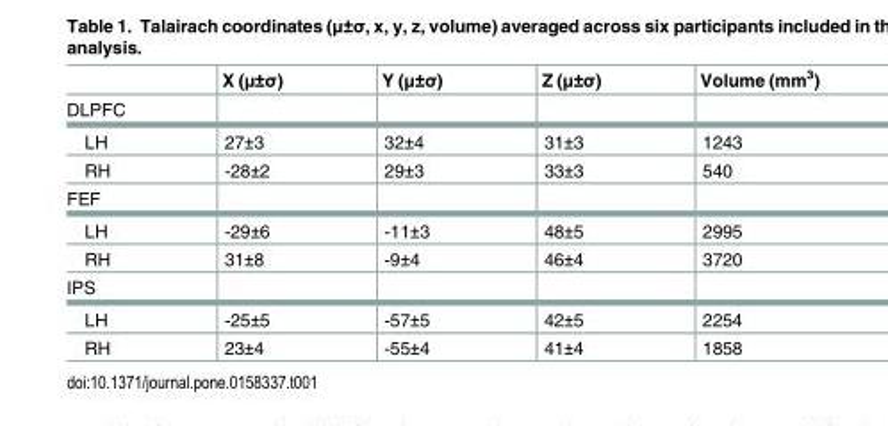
<table><thead><tr><td></td><td>X (μ±σ)</td><td>Y (μ±σ)</td><td>Z (μ±σ)</td><td>Volume (mm<sup>3</sup>)</td></tr></thead><tbody><tr><td colspan="5">DLPFC</td></tr><tr><td>LH</td><td>27±3</td><td>32±4</td><td>31±3</td><td>1243</td></tr><tr><td>RH</td><td>-28±2</td><td>29±3</td><td>33±3</td><td>540</td></tr><tr><td colspan="5">FEF</td></tr><tr><td>LH</td><td>-29±6</td><td>-11±3</td><td>48±5</td><td>2995</td></tr><tr><td>RH</td><td>31±8</td><td>-9±4</td><td>46±4</td><td>3720</td></tr><tr><td colspan="5">IPS</td></tr><tr><td>LH</td><td>-25±5</td><td>-57±5</td><td>42±5</td><td>2254</td></tr><tr><td>RH</td><td>23±4</td><td>-55±4</td><td>41±4</td><td>1858</td></tr></tbody></table>